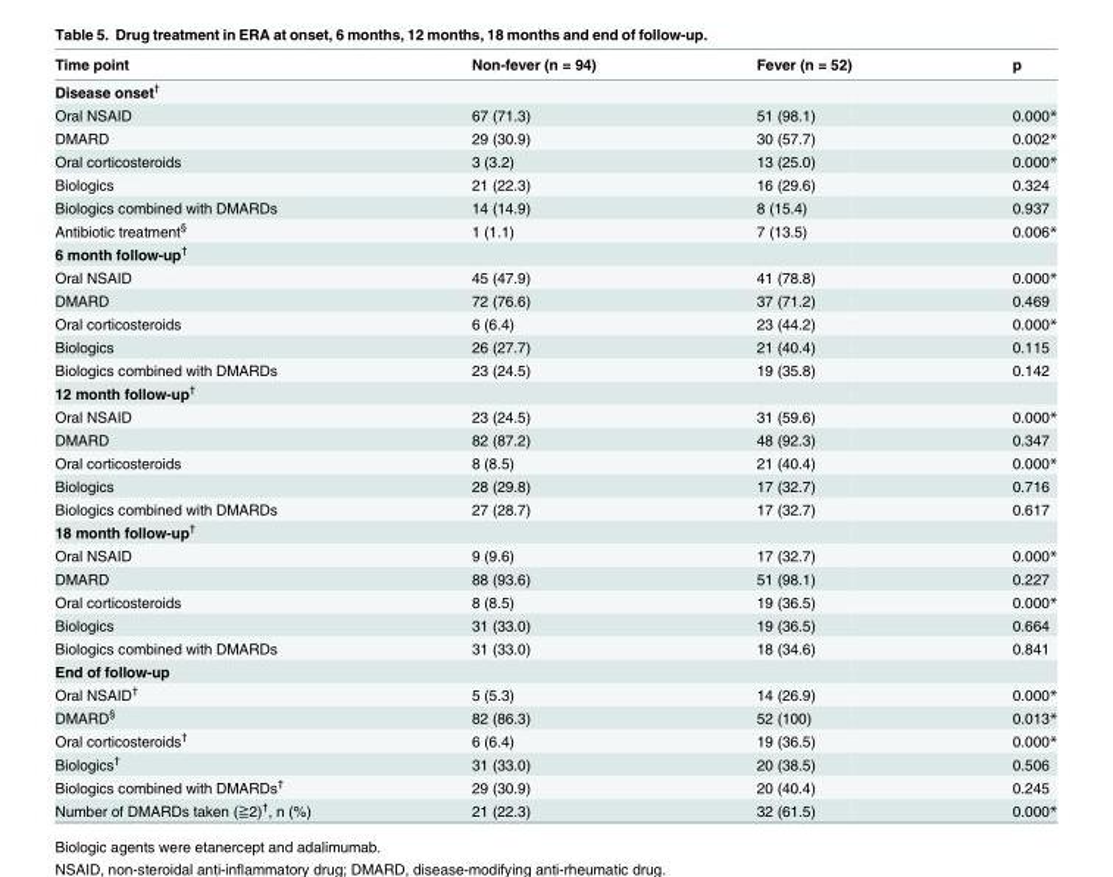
<table><thead><tr><td>Time point</td><td>Non-fever (n = 94)</td><td>Fever (n = 52)</td><td>p</td></tr></thead><tbody><tr><td colspan="4">Disease onset<sup>†</sup></td></tr><tr><td>Oral NSAID</td><td>67 (71.3)</td><td>51 (98.1)</td><td>0.000*</td></tr><tr><td>DMARD</td><td>29 (30.9)</td><td>30 (57.7)</td><td>0.002*</td></tr><tr><td>Oral corticosteroids</td><td>3 (3.2)</td><td>13 (25.0)</td><td>0.000*</td></tr><tr><td>Biologics</td><td>21 (22.3)</td><td>16 (29.6)</td><td>0.324</td></tr><tr><td>Biologics combined with DMARDs</td><td>14 (14.9)</td><td>8 (15.4)</td><td>0.937</td></tr><tr><td>Antibiotic treatment<sup>§</sup></td><td>1 (1.1)</td><td>7 (13.5)</td><td>0.006*</td></tr><tr><td colspan="4">6 month follow-up<sup>†</sup></td></tr><tr><td>Oral NSAID</td><td>45 (47.9)</td><td>41 (78.8)</td><td>0.000*</td></tr><tr><td>DMARD</td><td>72 (76.6)</td><td>37 (71.2)</td><td>0.469</td></tr><tr><td>Oral corticosteroids</td><td>6 (6.4)</td><td>23 (44.2)</td><td>0.000*</td></tr><tr><td>Biologics</td><td>26 (27.7)</td><td>21 (40.4)</td><td>0.115</td></tr><tr><td>Biologics combined with DMARDs</td><td>23 (24.5)</td><td>19 (35.8)</td><td>0.142</td></tr><tr><td colspan="4">12 month follow-up<sup>†</sup></td></tr><tr><td>Oral NSAID</td><td>23 (24.5)</td><td>31 (59.6)</td><td>0.000*</td></tr><tr><td>DMARD</td><td>82 (87.2)</td><td>48 (92.3)</td><td>0.347</td></tr><tr><td>Oral corticosteroids</td><td>8 (8.5)</td><td>21 (40.4)</td><td>0.000*</td></tr><tr><td>Biologics</td><td>28 (29.8)</td><td>17 (32.7)</td><td>0.716</td></tr><tr><td>Biologics combined with DMARDs</td><td>27 (28.7)</td><td>17 (32.7)</td><td>0.617</td></tr><tr><td colspan="4">18 month follow-up<sup>†</sup></td></tr><tr><td>Oral NSAID</td><td>9 (9.6)</td><td>17 (32.7)</td><td>0.000*</td></tr><tr><td>DMARD</td><td>88 (93.6)</td><td>51 (98.1)</td><td>0.227</td></tr><tr><td>Oral corticosteroids</td><td>8 (8.5)</td><td>19 (36.5)</td><td>0.000*</td></tr><tr><td>Biologics</td><td>31 (33.0)</td><td>19 (36.5)</td><td>0.664</td></tr><tr><td>Biologics combined with DMARDs</td><td>31 (33.0)</td><td>18 (34.6)</td><td>0.841</td></tr><tr><td colspan="4">End of follow-up</td></tr><tr><td>Oral NSAID<sup>†</sup></td><td>5 (5.3)</td><td>14 (26.9)</td><td>0.000*</td></tr><tr><td>DMARD<sup>§</sup></td><td>82 (86.3)</td><td>52 (100)</td><td>0.013*</td></tr><tr><td>Oral corticosteroids<sup>†</sup></td><td>6 (6.4)</td><td>19 (36.5)</td><td>0.000*</td></tr><tr><td>Biologics<sup>†</sup></td><td>31 (33.0)</td><td>20 (38.5)</td><td>0.506</td></tr><tr><td>Biologics combined with DMARDs<sup>†</sup></td><td>29 (30.9)</td><td>20 (40.4)</td><td>0.245</td></tr><tr><td>Number of DMARDs taken (≧2)<sup>†</sup>, n (%)</td><td>21 (22.3)</td><td>32 (61.5)</td><td>0.000*</td></tr></tbody></table>